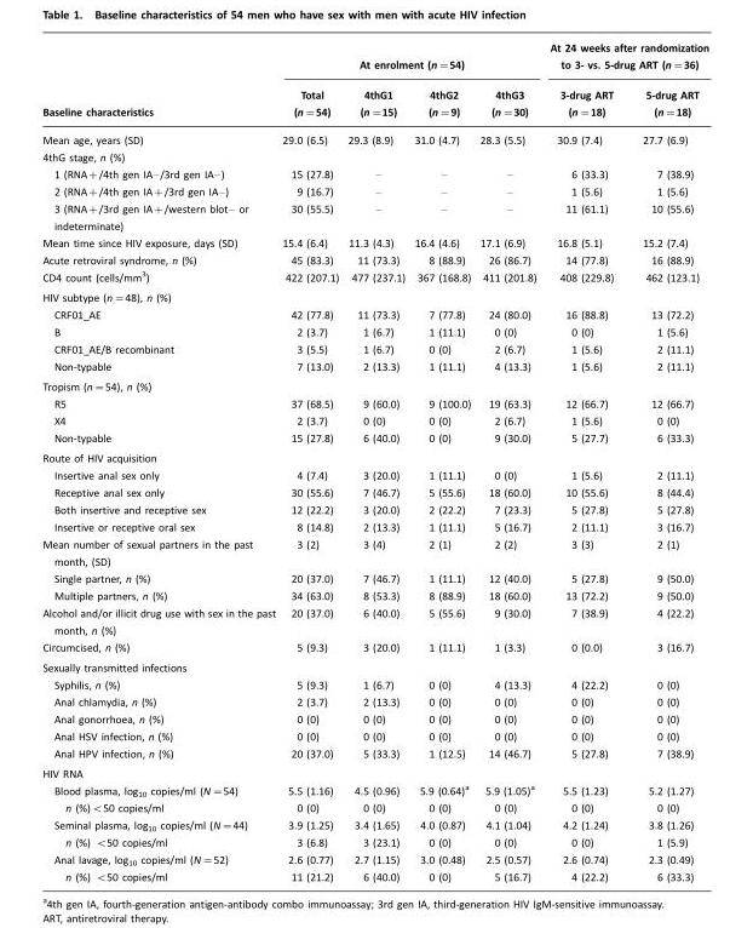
<table><thead><tr><td rowspan="2">Baseline characteristics</td><td colspan="4">At enrolment (n=54)</td><td colspan="2">At 24 weeks after randomization to 3- vs. 5-drug ART (n=36)</td></tr><tr><td>Total (n=54)</td><td>4thG1 (n=15)</td><td>4thG2 (n=9)</td><td>4thG3 (n=30)</td><td>3-drug ART (n=18)</td><td>5-drug ART (n=18)</td></tr></thead><tbody><tr><td>Mean age, years (SD)</td><td>29.0 (6.5)</td><td>29.3 (8.9)</td><td>31.0 (4.7)</td><td>28.3 (5.5)</td><td>30.9 (7.4)</td><td>27.7 (6.9)</td></tr><tr><td colspan="7">4thG stage, n (%)</td></tr><tr><td>1 (RNA+/4th gen IA–/3rd gen IA–)</td><td>15 (27.8)</td><td>–</td><td>–</td><td>–</td><td>6 (33.3)</td><td>7 (38.9)</td></tr><tr><td>2 (RNA+/4th gen IA+/3rd gen IA–)</td><td>9 (16.7)</td><td>–</td><td>–</td><td>–</td><td>1 (5.6)</td><td>1 (5.6)</td></tr><tr><td>3 (RNA+/3rd gen IA+/western blot– or indeterminate)</td><td>30 (55.5)</td><td>–</td><td>–</td><td>–</td><td>11 (61.1)</td><td>10 (55.6)</td></tr><tr><td>Mean time since HIV exposure, days (SD)</td><td>15.4 (6.4)</td><td>11.3 (4.3)</td><td>16.4 (4.6)</td><td>17.1 (6.9)</td><td>16.8 (5.1)</td><td>15.2 (7.4)</td></tr><tr><td>Acute retroviral syndrome, n (%)</td><td>45 (83.3)</td><td>11 (73.3)</td><td>8 (88.9)</td><td>26 (86.7)</td><td>14 (77.8)</td><td>16 (88.9)</td></tr><tr><td>CD4 count (cells/mm<sup>3</sup>)</td><td>422 (207.1)</td><td>477 (237.1)</td><td>367 (168.8)</td><td>411 (201.8)</td><td>408 (229.8)</td><td>462 (123.1)</td></tr><tr><td colspan="7">HIV subtype (n=48), n (%)</td></tr><tr><td>CRF01_AE</td><td>42 (77.8)</td><td>11 (73.3)</td><td>7 (77.8)</td><td>24 (80.0)</td><td>16 (88.8)</td><td>13 (72.2)</td></tr><tr><td>B</td><td>2 (3.7)</td><td>1 (6.7)</td><td>1 (11.1)</td><td>0 (0)</td><td>0 (0)</td><td>1 (5.6)</td></tr><tr><td>CRF01_AE/B recombinant</td><td>3 (5.5)</td><td>1 (6.7)</td><td>0 (0)</td><td>2 (6.7)</td><td>1 (5.6)</td><td>2 (11.1)</td></tr><tr><td>Non-typable</td><td>7 (13.0)</td><td>2 (13.3)</td><td>1 (11.1)</td><td>4 (13.3)</td><td>1 (5.6)</td><td>2 (11.1)</td></tr><tr><td colspan="7">Tropism (n=54), n (%)</td></tr><tr><td>R5</td><td>37 (68.5)</td><td>9 (60.0)</td><td>9 (100.0)</td><td>19 (63.3)</td><td>12 (66.7)</td><td>12 (66.7)</td></tr><tr><td>X4</td><td>2 (3.7)</td><td>0 (0)</td><td>0 (0)</td><td>2 (6.7)</td><td>1 (5.6)</td><td>0 (0)</td></tr><tr><td>Non-typable</td><td>15 (27.8)</td><td>6 (40.0)</td><td>0 (0)</td><td>9 (30.0)</td><td>5 (27.7)</td><td>6 (33.3)</td></tr><tr><td colspan="7">Route of HIV acquisition</td></tr><tr><td>Insertive anal sex only</td><td>4 (7.4)</td><td>3 (20.0)</td><td>1 (11.1)</td><td>0 (0)</td><td>1 (5.6)</td><td>2 (11.1)</td></tr><tr><td>Receptive anal sex only</td><td>30 (55.6)</td><td>7 (46.7)</td><td>5 (55.6)</td><td>18 (60.0)</td><td>10 (55.6)</td><td>8 (44.4)</td></tr><tr><td>Both insertive and receptive sex</td><td>12 (22.2)</td><td>3 (20.0)</td><td>2 (22.2)</td><td>7 (23.3)</td><td>5 (27.8)</td><td>5 (27.8)</td></tr><tr><td>Insertive or receptive oral sex</td><td>8 (14.8)</td><td>2 (13.3)</td><td>1 (11.1)</td><td>5 (16.7)</td><td>2 (11.1)</td><td>3 (16.7)</td></tr><tr><td>Mean number of sexual partners in the past month, (SD)</td><td>3 (2)</td><td>3 (4)</td><td>2 (1)</td><td>2 (2)</td><td>3 (3)</td><td>2 (1)</td></tr><tr><td>Single partner, n (%)</td><td>20 (37.0)</td><td>7 (46.7)</td><td>1 (11.1)</td><td>12 (40.0)</td><td>5 (27.8)</td><td>9 (50.0)</td></tr><tr><td>Multiple partners, n (%)</td><td>34 (63.0)</td><td>8 (53.3)</td><td>8 (88.9)</td><td>18 (60.0)</td><td>13 (72.2)</td><td>9 (50.0)</td></tr><tr><td>Alcohol and/or illicit drug use with sex in the past month, n (%)</td><td>20 (37.0)</td><td>6 (40.0)</td><td>5 (55.6)</td><td>9 (30.0)</td><td>7 (38.9)</td><td>4 (22.2)</td></tr><tr><td>Circumcised, n (%)</td><td>5 (9.3)</td><td>3 (20.0)</td><td>1 (11.1)</td><td>1 (3.3)</td><td>0 (0.0)</td><td>3 (16.7)</td></tr><tr><td colspan="7">Sexually transmitted infections</td></tr><tr><td>Syphilis, n (%)</td><td>5 (9.3)</td><td>1 (6.7)</td><td>0 (0)</td><td>4 (13.3)</td><td>4 (22.2)</td><td>0 (0)</td></tr><tr><td>Anal chlamydia, n (%)</td><td>2 (3.7)</td><td>2 (13.3)</td><td>0 (0)</td><td>0 (0)</td><td>0 (0)</td><td>0 (0)</td></tr><tr><td>Anal gonorrhoea, n (%)</td><td>0 (0)</td><td>0 (0)</td><td>0 (0)</td><td>0 (0)</td><td>0 (0)</td><td>0 (0)</td></tr><tr><td>Anal HSV infection, n (%)</td><td>0 (0)</td><td>0 (0)</td><td>0 (0)</td><td>0 (0)</td><td>0 (0)</td><td>0 (0)</td></tr><tr><td>Anal HPV infection, n (%)</td><td>20 (37.0)</td><td>5 (33.3)</td><td>1 (12.5)</td><td>14 (46.7)</td><td>5 (27.8)</td><td>7 (38.9)</td></tr><tr><td colspan="7">HIV RNA</td></tr><tr><td>Blood plasma, log<sub>10</sub> copies/ml (N=54)</td><td>5.5 (1.16)</td><td>4.5 (0.96)</td><td>5.9 (0.64)<sup>a</sup></td><td>5.9 (1.05)<sup>a</sup></td><td>5.5 (1.23)</td><td>5.2 (1.27)</td></tr><tr><td>n (%)&lt;50 copies/ml</td><td>0 (0)</td><td>0 (0)</td><td>0 (0)</td><td>0 (0)</td><td>0 (0)</td><td>0 (0)</td></tr><tr><td>Seminal plasma, log<sub>10</sub> copies/ml (N=44)</td><td>3.9 (1.25)</td><td>3.4 (1.65)</td><td>4.0 (0.87)</td><td>4.1 (1.04)</td><td>4.2 (1.24)</td><td>3.8 (1.26)</td></tr><tr><td>n (%) &lt;50 copies/ml</td><td>3 (6.8)</td><td>3 (23.1)</td><td>0 (0)</td><td>0 (0)</td><td>0 (0)</td><td>1 (5.9)</td></tr><tr><td>Anal lavage, log<sub>10</sub> copies/ml (N=52)</td><td>2.6 (0.77)</td><td>2.7 (1.15)</td><td>3.0 (0.48)</td><td>2.5 (0.57)</td><td>2.6 (0.74)</td><td>2.3 (0.49)</td></tr><tr><td>n (%) &lt;50 copies/ml</td><td>11 (21.2)</td><td>6 (40.0)</td><td>0 (0)</td><td>5 (16.7)</td><td>4 (22.2)</td><td>6 (33.3)</td></tr></tbody></table>